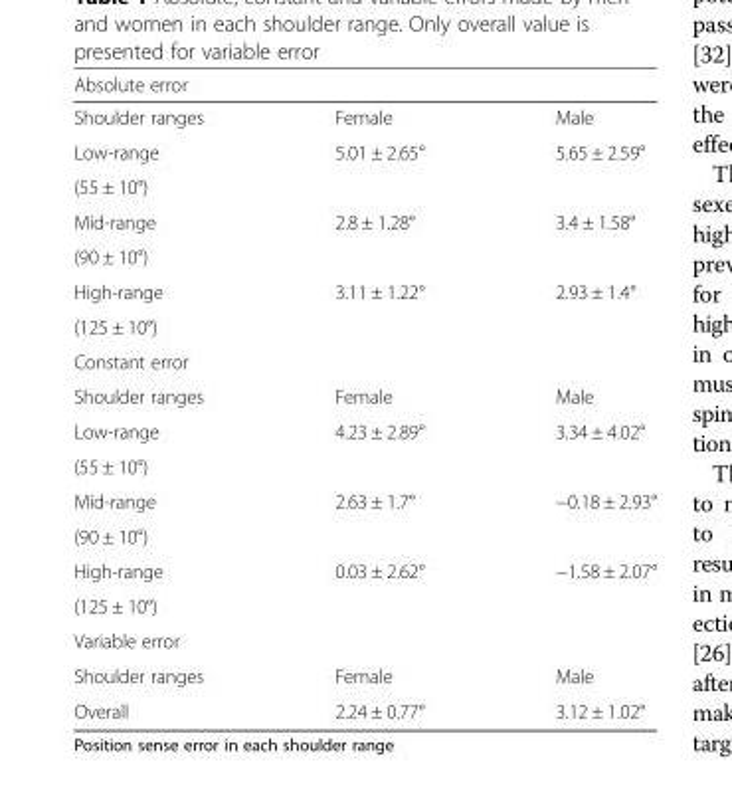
<table><thead><tr><td colspan="3">Absolute error</td></tr><tr><td>Shoulder ranges</td><td>Female</td><td>Male</td></tr></thead><tbody><tr><td>Low-range</td><td>5.01 ± 2.65°</td><td>5.65 ± 2.59°</td></tr><tr><td colspan="3">(55 ± 10°)</td></tr><tr><td>Mid-range</td><td>2.8 ± 1.28°</td><td>3.4 ± 1.58°</td></tr><tr><td colspan="3">(90 ± 10°)</td></tr><tr><td>High-range</td><td>3.11 ± 1.22°</td><td>2.93 ± 1.4°</td></tr><tr><td colspan="3">(125 ± 10°)</td></tr><tr><td colspan="3">Constant error</td></tr><tr><td>Shoulder ranges</td><td>Female</td><td>Male</td></tr><tr><td>Low-range</td><td>4.23 ± 2.89°</td><td>3.34 ± 4.02°</td></tr><tr><td colspan="3">(55 ± 10°)</td></tr><tr><td>Mid-range</td><td>2.63 ± 1.7°</td><td>−0.18 ± 2.93°</td></tr><tr><td colspan="3">(90 ± 10°)</td></tr><tr><td>High-range</td><td>0.03 ± 2.62°</td><td>−1.58 ± 2.07°</td></tr><tr><td colspan="3">(125 ± 10°)</td></tr><tr><td colspan="3">Variable error</td></tr><tr><td>Shoulder ranges</td><td>Female</td><td>Male</td></tr><tr><td>Overall</td><td>2.24 ± 0.77°</td><td>3.12 ± 1.02°</td></tr></tbody></table>